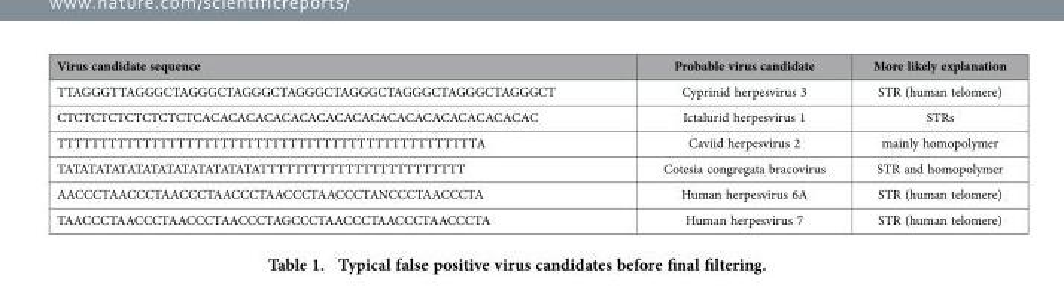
<table><thead><tr><td>Virus candidate sequence</td><td>Probable virus candidate</td><td>More likely explanation</td></tr></thead><tbody><tr><td>TTAGGGTTAGGGCTAGGGCTAGGGCTAGGGCTAGGGCTAGGGCTAGGGCTAGGGCT</td><td>Cyprinid herpesvirus 3</td><td>STR (human telomere)</td></tr><tr><td>CTCTCTCTCTCTCTCTCACACACACACACACACACACACACACACACACACACAC</td><td>Ictalurid herpesvirus 1</td><td>STRs</td></tr><tr><td>TTTTTTTTTTTTTTTTTTTTTTTTTTTTTTTTTTTTTTTTTTTTTTTTTA</td><td>Caviid herpesvirus 2</td><td>mainly homopolymer</td></tr><tr><td>TATATATATATATATATATATATATATTTTTTTTTTTTTTTTTTTTTTTT</td><td>Cotesia congregata bracovirus</td><td>STR and homopolymer</td></tr><tr><td>AACCCTAACCCTAACCCTAACCCTAACCCTAACCCTANCCCTAACCCTA</td><td>Human herpesvirus 6A</td><td>STR (human telomere)</td></tr><tr><td>TAACCCTAACCCTAACCCTAACCCTAGCCCTAACCCTAACCCTAACCCTA</td><td>Human herpesvirus 7</td><td>STR (human telomere)</td></tr></tbody></table>